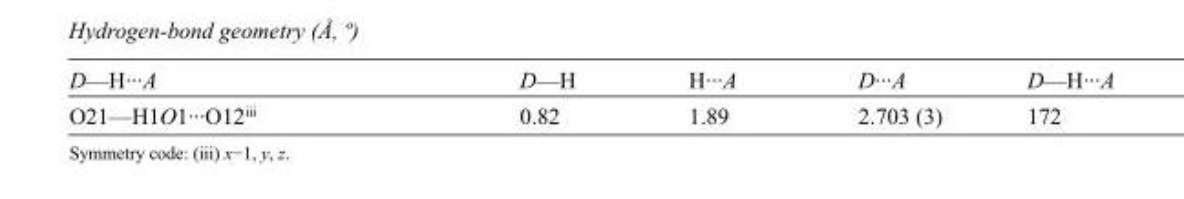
<table><tbody><tr><td>D—H···A</td><td>D—H</td><td>H···A</td><td>D···A</td><td>D—H···A</td></tr><tr><td>O21—H1O1···O12<sup>iii</sup></td><td>0.82</td><td>1.89</td><td>2.703 (3)</td><td>172</td></tr></tbody></table>